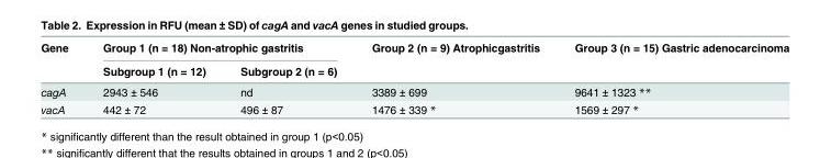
<table><thead><tr><td rowspan="2">Gene</td><td colspan="2">Group 1 (n = 18) Non-atrophic gastritis</td><td rowspan="2">Group 2 (n = 9) Atrophicgastritis</td><td rowspan="2">Group 3 (n = 15) Gastric adenocarcinoma</td></tr><tr><td>Subgroup 1 (n = 12)</td><td>Subgroup 2 (n = 6)</td></tr></thead><tbody><tr><td>cagA</td><td>2943 ± 546</td><td>nd</td><td>3389 ± 699</td><td>9641 ± 1323 **</td></tr><tr><td>vacA</td><td>442 ± 72</td><td>496 ± 87</td><td>1476 ± 339 *</td><td>1569 ± 297 *</td></tr></tbody></table>